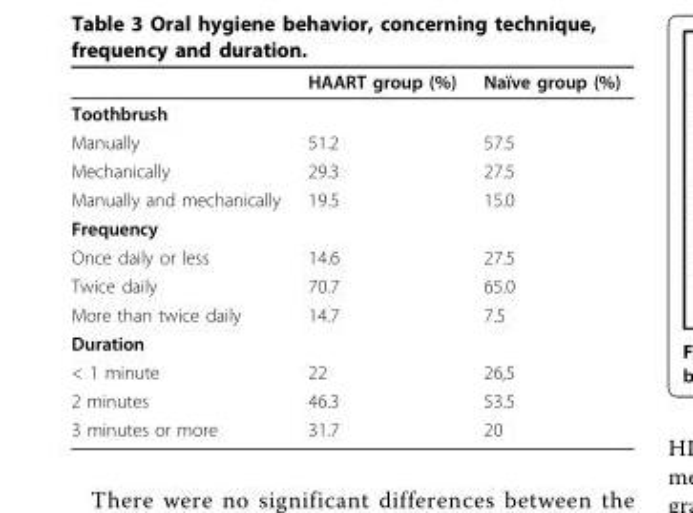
<table><thead><tr><td></td><td>HAART group (%)</td><td>Naïve group (%)</td></tr></thead><tbody><tr><td colspan="3">Toothbrush</td></tr><tr><td>Manually</td><td>51.2</td><td>57.5</td></tr><tr><td>Mechanically</td><td>29.3</td><td>27.5</td></tr><tr><td>Manually and mechanically</td><td>19.5</td><td>15.0</td></tr><tr><td colspan="3">Frequency</td></tr><tr><td>Once daily or less</td><td>14.6</td><td>27.5</td></tr><tr><td>Twice daily</td><td>70.7</td><td>65.0</td></tr><tr><td>More than twice daily</td><td>14.7</td><td>7.5</td></tr><tr><td colspan="3">Duration</td></tr><tr><td>&lt; 1 minute</td><td>22</td><td>26,5</td></tr><tr><td>2 minutes</td><td>46.3</td><td>53.5</td></tr><tr><td>3 minutes or more</td><td>31.7</td><td>20</td></tr></tbody></table>